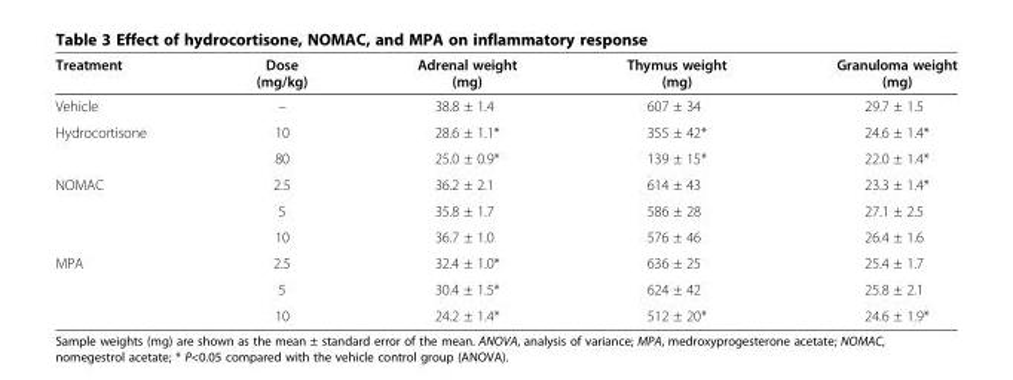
<table><thead><tr><td>Treatment</td><td>Dose (mg/kg)</td><td>Adrenal weight (mg)</td><td>Thymus weight (mg)</td><td>Granuloma weight (mg)</td></tr></thead><tbody><tr><td>Vehicle</td><td>–</td><td>38.8 ± 1.4</td><td>607 ± 34</td><td>29.7 ± 1.5</td></tr><tr><td rowspan="2">Hydrocortisone</td><td>10</td><td>28.6 ± 1.1*</td><td>355 ± 42*</td><td>24.6 ± 1.4*</td></tr><tr><td>80</td><td>25.0 ± 0.9*</td><td>139 ± 15*</td><td>22.0 ± 1.4*</td></tr><tr><td rowspan="3">NOMAC</td><td>2.5</td><td>36.2 ± 2.1</td><td>614 ± 43</td><td>23.3 ± 1.4*</td></tr><tr><td>5</td><td>35.8 ± 1.7</td><td>586 ± 28</td><td>27.1 ± 2.5</td></tr><tr><td>10</td><td>36.7 ± 1.0</td><td>576 ± 46</td><td>26.4 ± 1.6</td></tr><tr><td rowspan="3">MPA</td><td>2.5</td><td>32.4 ± 1.0*</td><td>636 ± 25</td><td>25.4 ± 1.7</td></tr><tr><td>5</td><td>30.4 ± 1.5*</td><td>624 ± 42</td><td>25.8 ± 2.1</td></tr><tr><td>10</td><td>24.2 ± 1.4*</td><td>512 ± 20*</td><td>24.6 ± 1.9*</td></tr></tbody></table>